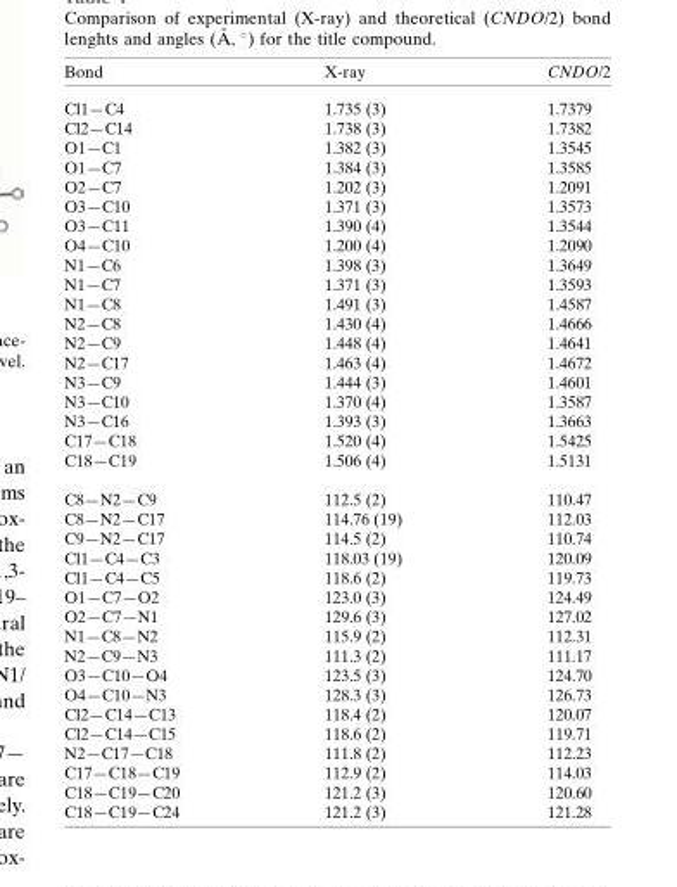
<table><thead><tr><td>Bond</td><td>X-ray</td><td>CNDO/2</td></tr></thead><tbody><tr><td>Cl1—C4</td><td>1.735 (3)</td><td>1.7379</td></tr><tr><td>Cl2—C14</td><td>1.738 (3)</td><td>1.7382</td></tr><tr><td>O1—C1</td><td>1.382 (3)</td><td>1.3545</td></tr><tr><td>O1—C7</td><td>1.384 (3)</td><td>1.3585</td></tr><tr><td>O2—C7</td><td>1.202 (3)</td><td>1.2091</td></tr><tr><td>O3—C10</td><td>1.371 (3)</td><td>1.3573</td></tr><tr><td>O3—C11</td><td>1.390 (4)</td><td>1.3544</td></tr><tr><td>O4—C10</td><td>1.200 (4)</td><td>1.2090</td></tr><tr><td>N1—C6</td><td>1.398 (3)</td><td>1.3649</td></tr><tr><td>N1—C7</td><td>1.371 (3)</td><td>1.3593</td></tr><tr><td>N1—C8</td><td>1.491 (3)</td><td>1.4587</td></tr><tr><td>N2—C8</td><td>1.430 (4)</td><td>1.4666</td></tr><tr><td>N2—C9</td><td>1.448 (4)</td><td>1.4641</td></tr><tr><td>N2—C17</td><td>1.463 (4)</td><td>1.4672</td></tr><tr><td>N3—C9</td><td>1.444 (3)</td><td>1.4601</td></tr><tr><td>N3—C10</td><td>1.370 (4)</td><td>1.3587</td></tr><tr><td>N3—C16</td><td>1.393 (3)</td><td>1.3663</td></tr><tr><td>C17—C18</td><td>1.520 (4)</td><td>1.5425</td></tr><tr><td>C18—C19</td><td>1.506 (4)</td><td>1.5131</td></tr><tr><td>C8—N2—C9</td><td>112.5 (2)</td><td>110.47</td></tr><tr><td>C8—N2—C17</td><td>114.76 (19)</td><td>112.03</td></tr><tr><td>C9—N2—C17</td><td>114.5 (2)</td><td>110.74</td></tr><tr><td>Cl1—C4—C3</td><td>118.03 (19)</td><td>120.09</td></tr><tr><td>Cl1—C4—C5</td><td>118.6 (2)</td><td>119.73</td></tr><tr><td>O1—C7—O2</td><td>123.0 (3)</td><td>124.49</td></tr><tr><td>O2—C7—N1</td><td>129.6 (3)</td><td>127.02</td></tr><tr><td>N1—C8—N2</td><td>115.9 (2)</td><td>112.31</td></tr><tr><td>N2—C9—N3</td><td>111.3 (2)</td><td>111.17</td></tr><tr><td>O3—C10—O4</td><td>123.5 (3)</td><td>124.70</td></tr><tr><td>O4—C10—N3</td><td>128.3 (3)</td><td>126.73</td></tr><tr><td>Cl2—C14—C13</td><td>118.4 (2)</td><td>120.07</td></tr><tr><td>Cl2—C14—C15</td><td>118.6 (2)</td><td>119.71</td></tr><tr><td>N2—C17—C18</td><td>111.8 (2)</td><td>112.23</td></tr><tr><td>C17—C18—C19</td><td>112.9 (2)</td><td>114.03</td></tr><tr><td>C18—C19—C20</td><td>121.2 (3)</td><td>120.60</td></tr><tr><td>C18—C19—C24</td><td>121.2 (3)</td><td>121.28</td></tr></tbody></table>